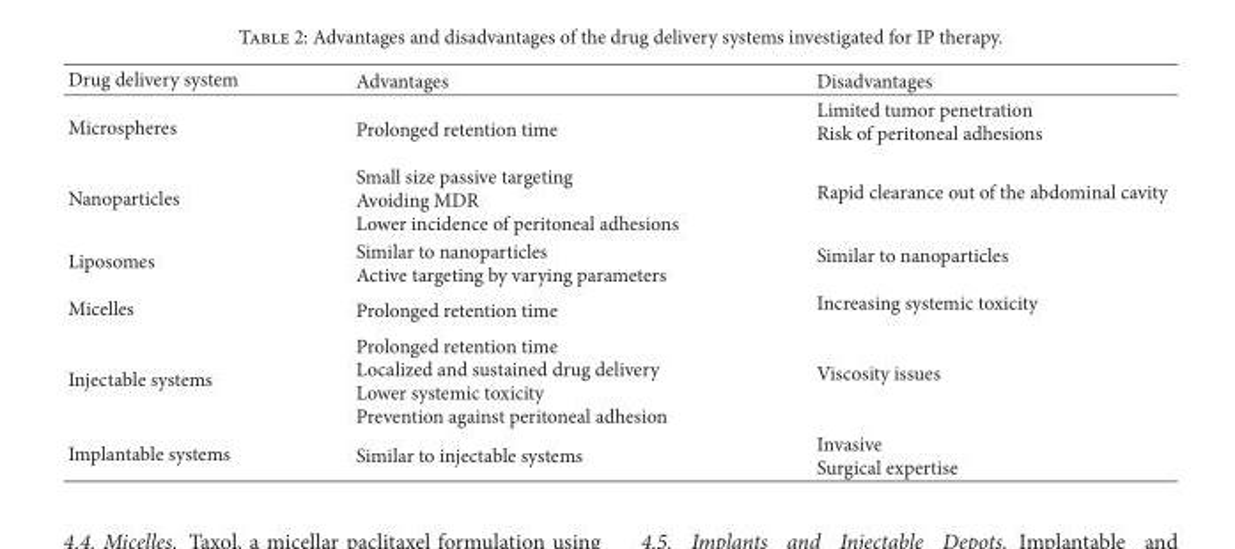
<table><thead><tr><td>Drug delivery system</td><td>Advantages</td><td>Disadvantages</td></tr></thead><tbody><tr><td>Microspheres</td><td>Prolonged retention time</td><td>Limited tumor penetration Risk of peritoneal adhesions</td></tr><tr><td>Nanoparticles</td><td>Small size passive targeting Avoiding MDR Lower incidence of peritoneal adhesions</td><td>Rapid clearance out of the abdominal cavity</td></tr><tr><td>Liposomes</td><td>Similar to nanoparticles Active targeting by varying parameters</td><td>Similar to nanoparticles</td></tr><tr><td>Micelles</td><td>Prolonged retention time</td><td>Increasing systemic toxicity</td></tr><tr><td>Injectable systems</td><td>Prolonged retention time Localized and sustained drug delivery Lower systemic toxicity Prevention against peritoneal adhesion</td><td>Viscosity issues</td></tr><tr><td>Implantable systems</td><td>Similar to injectable systems</td><td>Invasive Surgical expertise</td></tr></tbody></table>